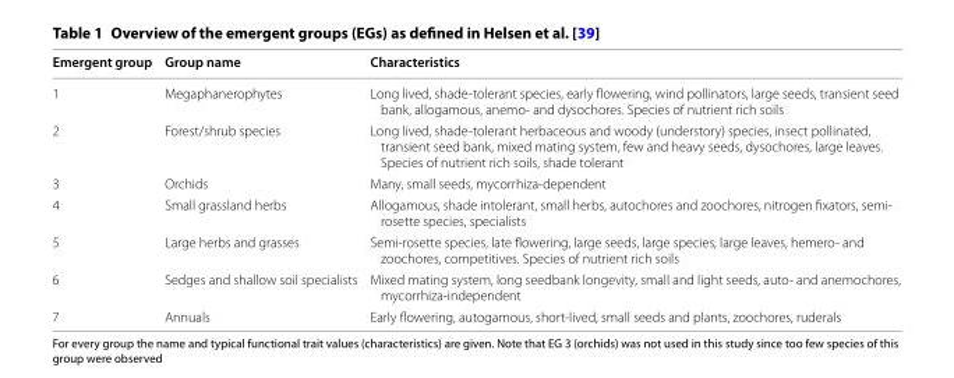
<table><thead><tr><td>Emergent group</td><td>Group name</td><td>Characteristics</td></tr></thead><tbody><tr><td>1</td><td>Megaphanerophytes</td><td>Long lived, shade-tolerant species, early flowering, wind pollinators, large seeds, transient seed bank, allogamous, anemo- and dysochores. Species of nutrient rich soils</td></tr><tr><td>2</td><td>Forest/shrub species</td><td>Long lived, shade-tolerant herbaceous and woody (understory) species, insect pollinated, transient seed bank, mixed mating system, few and heavy seeds, dysochores, large leaves. Species of nutrient rich soils, shade tolerant</td></tr><tr><td>3</td><td>Orchids</td><td>Many, small seeds, mycorrhiza-dependent</td></tr><tr><td>4</td><td>Small grassland herbs</td><td>Allogamous, shade intolerant, small herbs, autochores and zoochores, nitrogen fixators, semi- rosette species, specialists</td></tr><tr><td>5</td><td>Large herbs and grasses</td><td>Semi-rosette species, late flowering, large seeds, large species, large leaves, hemero- and zoochores, competitives. Species of nutrient rich soils</td></tr><tr><td>6</td><td>Sedges and shallow soil specialists</td><td>Mixed mating system, long seedbank longevity, small and light seeds, auto- and anemochores, mycorrhiza-independent</td></tr><tr><td>7</td><td>Annuals</td><td>Early flowering, autogamous, short-lived, small seeds and plants, zoochores, ruderals</td></tr></tbody></table>